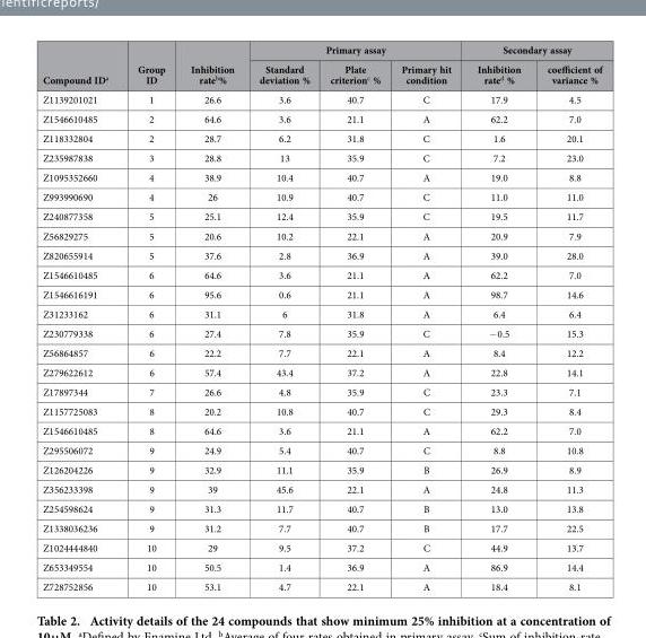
<table><thead><tr><td rowspan="2">Compound ID<sup>a</sup></td><td rowspan="2">Group ID</td><td rowspan="2">Inhibition rate<sup>b</sup>%</td><td colspan="3">Primary assay</td><td colspan="2">Secondary assay</td></tr><tr><td>Standard deviation %</td><td>Plate criterion<sup>c</sup> %</td><td>Primary hit condition</td><td>Inhibition rate<sup>d</sup> %</td><td>coefficient of variance %</td></tr></thead><tbody><tr><td>Z1139201021</td><td>1</td><td>26.6</td><td>3.6</td><td>40.7</td><td>C</td><td>17.9</td><td>4.5</td></tr><tr><td>Z1546610485</td><td>2</td><td>64.6</td><td>3.6</td><td>21.1</td><td>A</td><td>62.2</td><td>7.0</td></tr><tr><td>Z118332804</td><td>2</td><td>28.7</td><td>6.2</td><td>31.8</td><td>C</td><td>1.6</td><td>20.1</td></tr><tr><td>Z235987838</td><td>3</td><td>28.8</td><td>13</td><td>35.9</td><td>C</td><td>7.2</td><td>23.0</td></tr><tr><td>Z1095352660</td><td>4</td><td>38.9</td><td>10.4</td><td>40.7</td><td>A</td><td>19.0</td><td>8.8</td></tr><tr><td>Z993990690</td><td>4</td><td>26</td><td>10.9</td><td>40.7</td><td>C</td><td>11.0</td><td>11.0</td></tr><tr><td>Z240877358</td><td>5</td><td>25.1</td><td>12.4</td><td>35.9</td><td>C</td><td>19.5</td><td>11.7</td></tr><tr><td>Z56829275</td><td>5</td><td>20.6</td><td>10.2</td><td>22.1</td><td>A</td><td>20.9</td><td>7.9</td></tr><tr><td>Z820655914</td><td>5</td><td>37.6</td><td>2.8</td><td>36.9</td><td>A</td><td>39.0</td><td>28.0</td></tr><tr><td>Z1546610485</td><td>6</td><td>64.6</td><td>3.6</td><td>21.1</td><td>A</td><td>62.2</td><td>7.0</td></tr><tr><td>Z1546616191</td><td>6</td><td>95.6</td><td>0.6</td><td>21.1</td><td>A</td><td>98.7</td><td>14.6</td></tr><tr><td>Z31233162</td><td>6</td><td>31.1</td><td>6</td><td>31.8</td><td>A</td><td>6.4</td><td>6.4</td></tr><tr><td>Z230779338</td><td>6</td><td>27.4</td><td>7.8</td><td>35.9</td><td>C</td><td>− 0.5</td><td>15.3</td></tr><tr><td>Z56864857</td><td>6</td><td>22.2</td><td>7.7</td><td>22.1</td><td>A</td><td>8.4</td><td>12.2</td></tr><tr><td>Z279622612</td><td>6</td><td>57.4</td><td>43.4</td><td>37.2</td><td>A</td><td>22.8</td><td>14.1</td></tr><tr><td>Z17897344</td><td>7</td><td>26.6</td><td>4.8</td><td>35.9</td><td>C</td><td>23.3</td><td>7.1</td></tr><tr><td>Z1157725083</td><td>8</td><td>20.2</td><td>10.8</td><td>40.7</td><td>C</td><td>29.3</td><td>8.4</td></tr><tr><td>Z1546610485</td><td>8</td><td>64.6</td><td>3.6</td><td>21.1</td><td>A</td><td>62.2</td><td>7.0</td></tr><tr><td>Z295506072</td><td>9</td><td>24.9</td><td>5.4</td><td>40.7</td><td>C</td><td>8.8</td><td>10.8</td></tr><tr><td>Z126204226</td><td>9</td><td>32.9</td><td>11.1</td><td>35.9</td><td>B</td><td>26.9</td><td>8.9</td></tr><tr><td>Z356233398</td><td>9</td><td>39</td><td>45.6</td><td>22.1</td><td>A</td><td>24.8</td><td>11.3</td></tr><tr><td>Z254598624</td><td>9</td><td>31.3</td><td>11.7</td><td>40.7</td><td>B</td><td>13.0</td><td>13.8</td></tr><tr><td>Z1338036236</td><td>9</td><td>31.2</td><td>7.7</td><td>40.7</td><td>B</td><td>17.7</td><td>22.5</td></tr><tr><td>Z1024444840</td><td>10</td><td>29</td><td>9.5</td><td>37.2</td><td>C</td><td>44.9</td><td>13.7</td></tr><tr><td>Z653349554</td><td>10</td><td>50.5</td><td>1.4</td><td>36.9</td><td>A</td><td>86.9</td><td>14.4</td></tr><tr><td>Z728752856</td><td>10</td><td>53.1</td><td>4.7</td><td>22.1</td><td>A</td><td>18.4</td><td>8.1</td></tr></tbody></table>